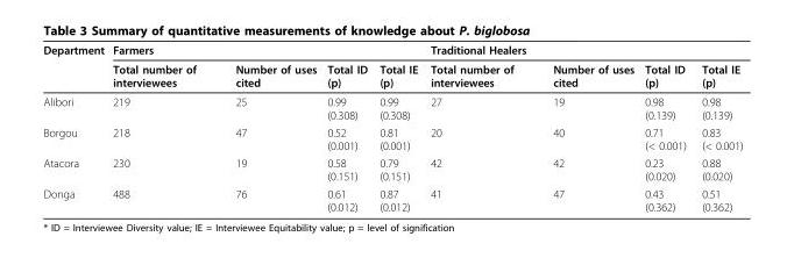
<table><thead><tr><td rowspan="2">Department</td><td colspan="4">Farmers</td><td colspan="4">Traditional Healers</td></tr><tr><td>Total number of interviewees</td><td>Number of uses cited</td><td>Total ID (p)</td><td>Total IE (p)</td><td>Total number of interviewees</td><td>Number of uses cited</td><td>Total ID (p)</td><td>Total IE (p)</td></tr></thead><tbody><tr><td>Alibori</td><td>219</td><td>25</td><td>0.99 (0.308)</td><td>0.99 (0.308)</td><td>27</td><td>19</td><td>0.98 (0.139)</td><td>0.98 (0.139)</td></tr><tr><td>Borgou</td><td>218</td><td>47</td><td>0.52 (0.001)</td><td>0.81 (0.001)</td><td>20</td><td>40</td><td>0.71 (&lt; 0.001)</td><td>0.83 (&lt; 0.001)</td></tr><tr><td>Atacora</td><td>230</td><td>19</td><td>0.58 (0.151)</td><td>0.79 (0.151)</td><td>42</td><td>42</td><td>0.23 (0.020)</td><td>0.88 (0.020)</td></tr><tr><td>Donga</td><td>488</td><td>76</td><td>0.61 (0.012)</td><td>0.87 (0.012)</td><td>41</td><td>47</td><td>0.43 (0.362)</td><td>0.51 (0.362)</td></tr></tbody></table>